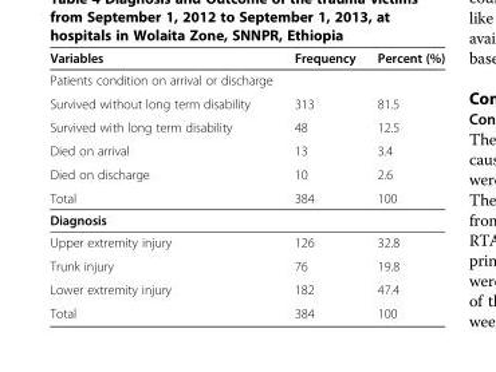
<table><thead><tr><td>Variables</td><td>Frequency</td><td>Percent (%)</td></tr></thead><tbody><tr><td colspan="3">Patients condition on arrival or discharge</td></tr><tr><td>Survived without long term disability</td><td>313</td><td>81.5</td></tr><tr><td>Survived with long term disability</td><td>48</td><td>12.5</td></tr><tr><td>Died on arrival</td><td>13</td><td>3.4</td></tr><tr><td>Died on discharge</td><td>10</td><td>2.6</td></tr><tr><td>Total</td><td>384</td><td>100</td></tr><tr><td colspan="3">Diagnosis</td></tr><tr><td>Upper extremity injury</td><td>126</td><td>32.8</td></tr><tr><td>Trunk injury</td><td>76</td><td>19.8</td></tr><tr><td>Lower extremity injury</td><td>182</td><td>47.4</td></tr><tr><td>Total</td><td>384</td><td>100</td></tr></tbody></table>